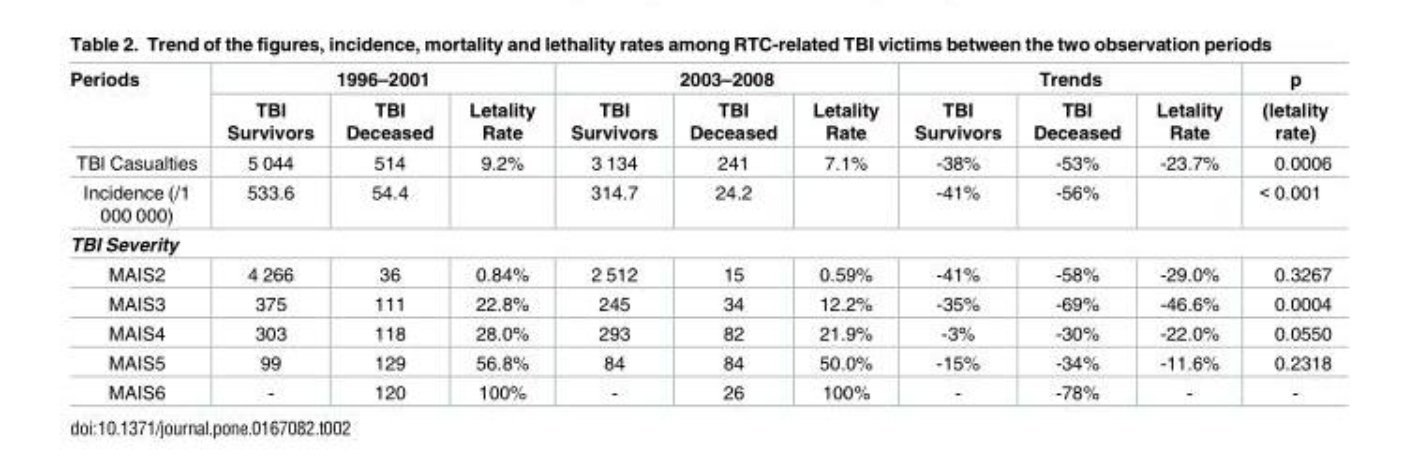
<table><thead><tr><td rowspan="2">Periods</td><td colspan="3">1996–2001</td><td colspan="3">2003–2008</td><td colspan="3">Trends</td><td rowspan="2">p (letality rate)</td></tr><tr><td>TBI Survivors</td><td>TBI Deceased</td><td>Letality Rate</td><td>TBI Survivors</td><td>TBI Deceased</td><td>Letality Rate</td><td>TBI Survivors</td><td>TBI Deceased</td><td>Letality Rate</td></tr></thead><tbody><tr><td>TBI Casualties</td><td>5 044</td><td>514</td><td>9.2%</td><td>3 134</td><td>241</td><td>7.1%</td><td>-38%</td><td>-53%</td><td>-23.7%</td><td>0.0006</td></tr><tr><td>Incidence (/1 000 000)</td><td>533.6</td><td>54.4</td><td></td><td>314.7</td><td>24.2</td><td></td><td>-41%</td><td>-56%</td><td></td><td>&lt; 0.001</td></tr><tr><td colspan="11">TBI Severity</td></tr><tr><td>MAIS2</td><td>4 266</td><td>36</td><td>0.84%</td><td>2 512</td><td>15</td><td>0.59%</td><td>-41%</td><td>-58%</td><td>-29.0%</td><td>0.3267</td></tr><tr><td>MAIS3</td><td>375</td><td>111</td><td>22.8%</td><td>245</td><td>34</td><td>12.2%</td><td>-35%</td><td>-69%</td><td>-46.6%</td><td>0.0004</td></tr><tr><td>MAIS4</td><td>303</td><td>118</td><td>28.0%</td><td>293</td><td>82</td><td>21.9%</td><td>-3%</td><td>-30%</td><td>-22.0%</td><td>0.0550</td></tr><tr><td>MAIS5</td><td>99</td><td>129</td><td>56.8%</td><td>84</td><td>84</td><td>50.0%</td><td>-15%</td><td>-34%</td><td>-11.6%</td><td>0.2318</td></tr><tr><td>MAIS6</td><td>-</td><td>120</td><td>100%</td><td>-</td><td>26</td><td>100%</td><td>-</td><td>-78%</td><td>-</td><td>-</td></tr></tbody></table>